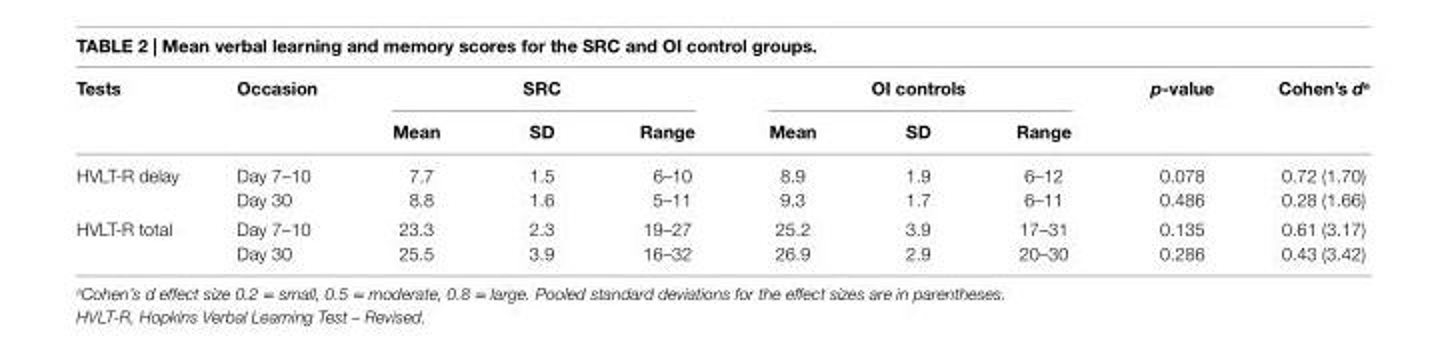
<table><thead><tr><td rowspan="2">Tests</td><td rowspan="2">Occasion</td><td colspan="3">src</td><td colspan="3">Oi controls</td><td rowspan="2">p-value</td><td rowspan="2">cohen’s d<sup>a</sup></td></tr><tr><td>Mean</td><td>sD</td><td>range</td><td>Mean</td><td>sD</td><td>range</td></tr></thead><tbody><tr><td rowspan="2">HVLT-R delay</td><td>Day 7–10</td><td>7.7</td><td>1.5</td><td>6–10</td><td>8.9</td><td>1.9</td><td>6–12</td><td>0.078</td><td>0.72 (1.70)</td></tr><tr><td>Day 30</td><td>8.8</td><td>1.6</td><td>5–11</td><td>9.3</td><td>1.7</td><td>6–11</td><td>0.486</td><td>0.28 (1.66)</td></tr><tr><td rowspan="2">HVLT-R total</td><td>Day 7–10</td><td>23.3</td><td>2.3</td><td>19–27</td><td>25.2</td><td>3.9</td><td>17–31</td><td>0.135</td><td>0.61 (3.17)</td></tr><tr><td>Day 30</td><td>25.5</td><td>3.9</td><td>16–32</td><td>26.9</td><td>2.9</td><td>20–30</td><td>0.286</td><td>0.43 (3.42)</td></tr></tbody></table>